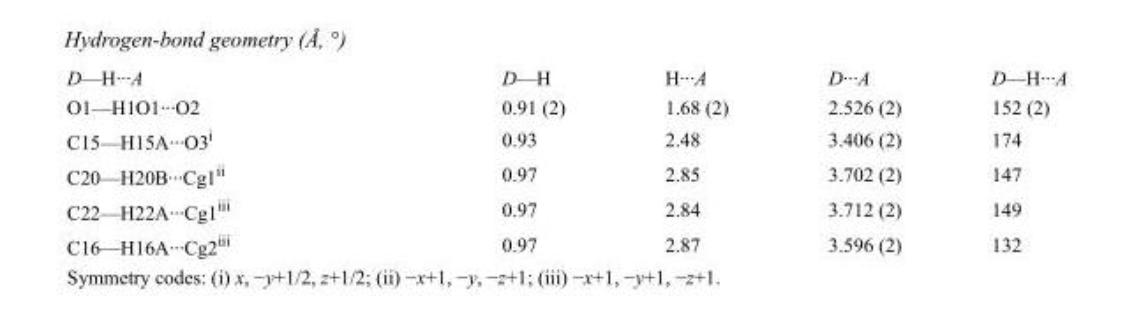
<table><tbody><tr><td>D—H···A</td><td>D—H</td><td>H···A</td><td>D···A</td><td>D—H···A</td></tr><tr><td>O1—H1O1···O2</td><td>0.91 (2)</td><td>1.68 (2)</td><td>2.526 (2)</td><td>152 (2)</td></tr><tr><td>C15—H15A···O3<sup>i</sup></td><td>0.93</td><td>2.48</td><td>3.406 (2)</td><td>174</td></tr><tr><td>C20—H20B···Cg1<sup>ii</sup></td><td>0.97</td><td>2.85</td><td>3.702 (2)</td><td>147</td></tr><tr><td>C22—H22A···Cg1<sup>iii</sup></td><td>0.97</td><td>2.84</td><td>3.712 (2)</td><td>149</td></tr><tr><td>C16—H16A···Cg2<sup>iii</sup></td><td>0.97</td><td>2.87</td><td>3.596 (2)</td><td>132</td></tr></tbody></table>